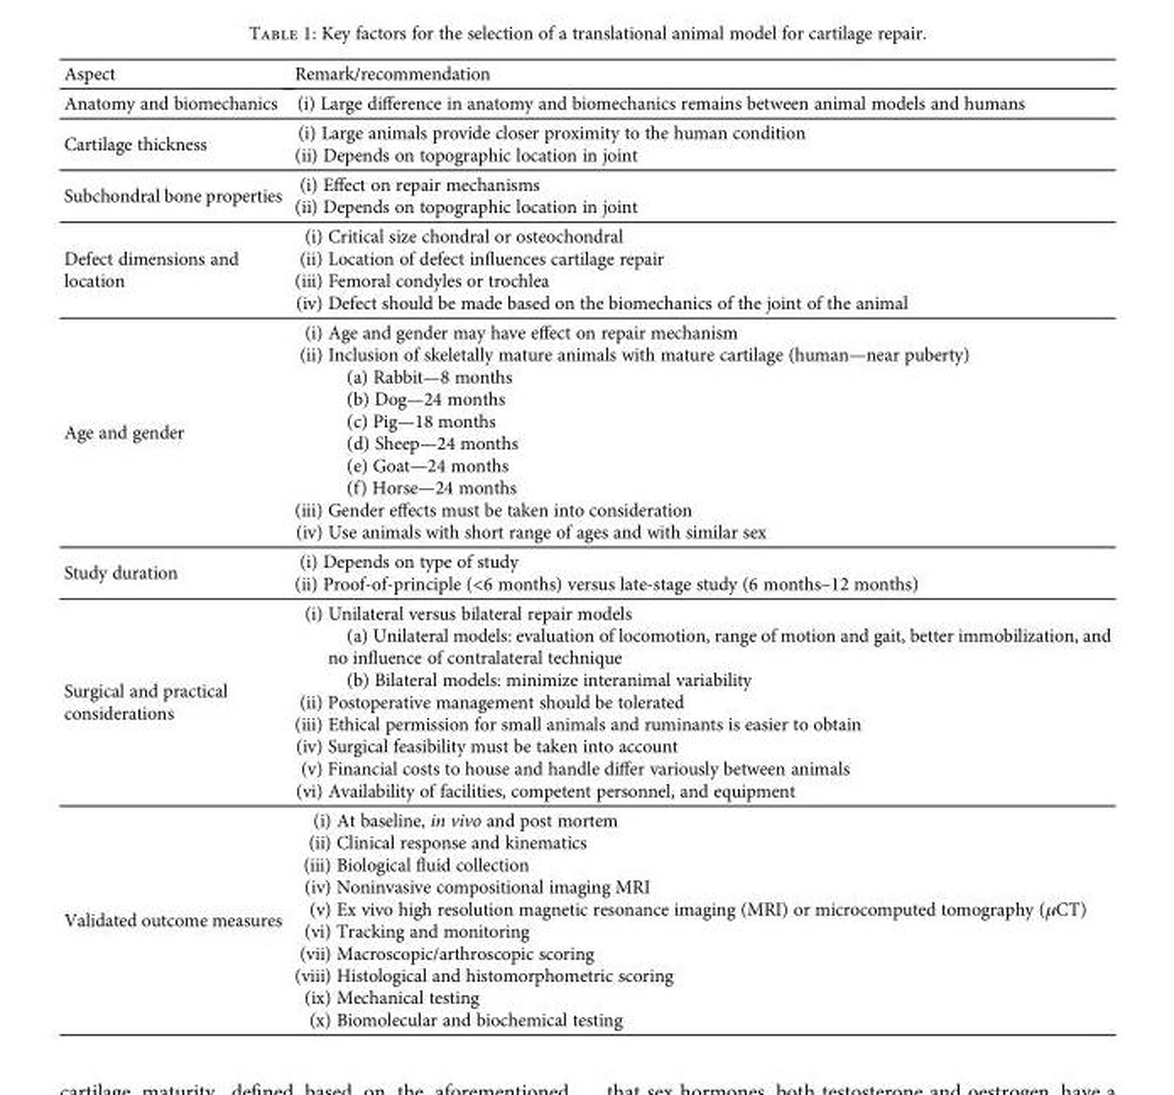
<table><thead><tr><td>Aspect</td><td>Remark/recommendation</td></tr></thead><tbody><tr><td>Anatomy and biomechanics</td><td>(i) Large difference in anatomy and biomechanics remains between animal models and humans</td></tr><tr><td>Cartilage thickness</td><td>(i) Large animals provide closer proximity to the human condition (ii) Depends on topographic location in joint</td></tr><tr><td>Subchondral bone properties</td><td>(i) Effect on repair mechanisms (ii) Depends on topographic location in joint</td></tr><tr><td>Defect dimensions and location</td><td>(i) Critical size chondral or osteochondral (ii) Location of defect influences cartilage repair (iii) Femoral condyles or trochlea (iv) Defect should be made based on the biomechanics of the joint of the animal</td></tr><tr><td>Age and gender</td><td>(i) Age and gender may have effect on repair mechanism (ii) Inclusion of skeletally mature animals with mature cartilage (human—near puberty) (a) Rabbit—8 months (b) Dog—24 months (c) Pig—18 months (d) Sheep—24 months (e) Goat—24 months (f) Horse—24 months (iii) Gender effects must be taken into consideration (iv) Use animals with short range of ages and with similar sex</td></tr><tr><td>Study duration</td><td>(i) Depends on type of study (ii) Proof-of-principle (&lt;6 months) versus late-stage study (6 months–12 months)</td></tr><tr><td>Surgical and practical considerations</td><td>(i) Unilateral versus bilateral repair models (a) Unilateral models: evaluation of locomotion, range of motion and gait, better immobilization, and no influence of contralateral technique (b) Bilateral models: minimize interanimal variability (ii) Postoperative management should be tolerated (iii) Ethical permission for small animals and ruminants is easier to obtain (iv) Surgical feasibility must be taken into account (v) Financial costs to house and handle differ variously between animals (vi) Availability of facilities, competent personnel, and equipment</td></tr><tr><td>Validated outcome measures</td><td>(i) At baseline, in vivo and post mortem (ii) Clinical response and kinematics (iii) Biological fluid collection (iv) Noninvasive compositional imaging MRI (v) Ex vivo high resolution magnetic resonance imaging (MRI) or microcomputed tomography (μCT) (vi) Tracking and monitoring (vii) Macroscopic/arthroscopic scoring (viii) Histological and histomorphometric scoring (ix) Mechanical testing (x) Biomolecular and biochemical testing</td></tr></tbody></table>